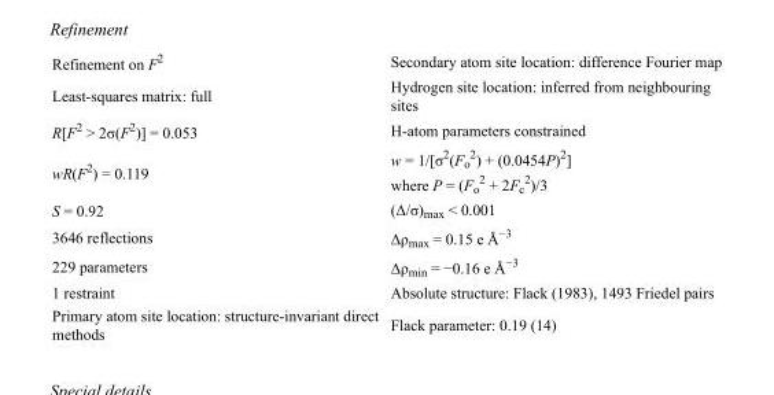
<table><tbody><tr><td>Refinement on F<sup>2</sup></td><td>Secondary atom site location: difference Fourier map</td></tr><tr><td>Least-squares matrix: full</td><td>Hydrogen site location: inferred from neighbouring sites</td></tr><tr><td>R[F<sup>2</sup> &gt; 2σ(F<sup>2</sup>)] = 0.053</td><td>H-atom parameters constrained</td></tr><tr><td>wR(F<sup>2</sup>) = 0.119</td><td>w = 1/[σ<sup>2</sup>(F<sub>o</sub> <sup>2</sup>) + (0.0454P)<sup>2</sup>] where P = (F<sub>o</sub> <sup>2</sup> + 2F<sub>c</sub> <sup>2</sup>)/3</td></tr><tr><td>S = 0.92</td><td>(Δ/σ)<sub>max</sub> &lt; 0.001</td></tr><tr><td>3646 reflections</td><td>Δρ<sub>max</sub> = 0.15 e Å<sup>−3</sup></td></tr><tr><td>229 parameters</td><td>Δρ<sub>min</sub> = −0.16 e Å<sup>−3</sup></td></tr><tr><td>1 restraint</td><td>Absolute structure: Flack (1983), 1493 Friedel pairs</td></tr><tr><td>Primary atom site location: structure-invariant direct methods</td><td>Flack parameter: 0.19 (14)</td></tr></tbody></table>